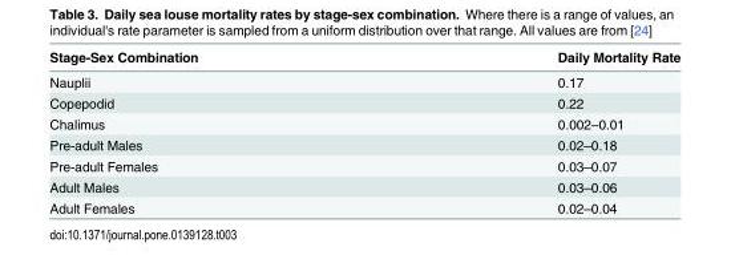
<table><thead><tr><td>Stage-Sex Combination</td><td>Daily Mortality Rate</td></tr></thead><tbody><tr><td>Nauplii</td><td>0.17</td></tr><tr><td>Copepodid</td><td>0.22</td></tr><tr><td>Chalimus</td><td>0.002–0.01</td></tr><tr><td>Pre-adult Males</td><td>0.02–0.18</td></tr><tr><td>Pre-adult Females</td><td>0.03–0.07</td></tr><tr><td>Adult Males</td><td>0.03–0.06</td></tr><tr><td>Adult Females</td><td>0.02–0.04</td></tr></tbody></table>